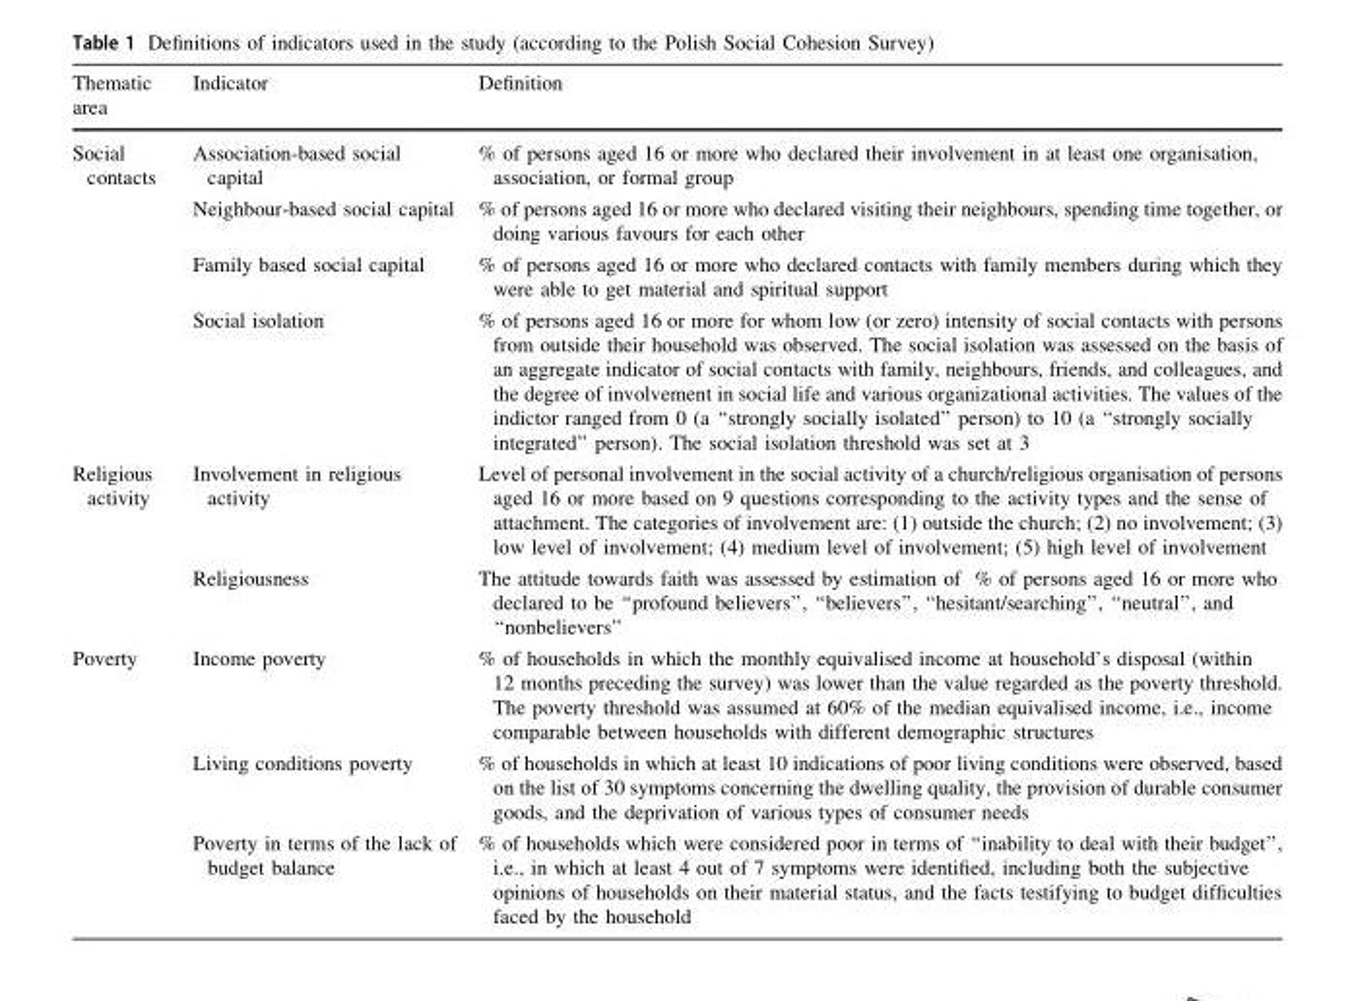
<table><thead><tr><td>Thematic area</td><td>Indicator</td><td>Definition</td></tr></thead><tbody><tr><td rowspan="4">Social contacts</td><td>Association-based social capital</td><td>% of persons aged 16 or more who declared their involvement in at least one organisation, association, or formal group</td></tr><tr><td>Neighbour-based social capital</td><td>% of persons aged 16 or more who declared visiting their neighbours, spending time together, or doing various favours for each other</td></tr><tr><td>Family based social capital</td><td>% of persons aged 16 or more who declared contacts with family members during which they were able to get material and spiritual support</td></tr><tr><td>Social isolation</td><td>% of persons aged 16 or more for whom low (or zero) intensity of social contacts with persons from outside their household was observed. The social isolation was assessed on the basis of an aggregate indicator of social contacts with family, neighbours, friends, and colleagues, and the degree of involvement in social life and various organizational activities. The values of the indictor ranged from 0 (a ‘‘strongly socially isolated’’ person) to 10 (a ‘‘strongly socially integrated’’ person). The social isolation threshold was set at 3</td></tr><tr><td rowspan="2">Religious activity</td><td>Involvement in religious activity</td><td>Level of personal involvement in the social activity of a church/religious organisation of persons aged 16 or more based on 9 questions corresponding to the activity types and the sense of attachment. The categories of involvement are: (1) outside the church; (2) no involvement; (3) low level of involvement; (4) medium level of involvement; (5) high level of involvement</td></tr><tr><td>Religiousness</td><td>The attitude towards faith was assessed by estimation of % of persons aged 16 or more who declared to be ‘‘profound believers’’, ‘‘believers’’, ‘‘hesitant/searching’’, ‘‘neutral’’, and ‘‘nonbelievers’’</td></tr><tr><td rowspan="3">Poverty</td><td>Income poverty</td><td>% of households in which the monthly equivalised income at household’s disposal (within 12 months preceding the survey) was lower than the value regarded as the poverty threshold. The poverty threshold was assumed at 60% of the median equivalised income, i.e., income comparable between households with different demographic structures</td></tr><tr><td>Living conditions poverty</td><td>% of households in which at least 10 indications of poor living conditions were observed, based on the list of 30 symptoms concerning the dwelling quality, the provision of durable consumer goods, and the deprivation of various types of consumer needs</td></tr><tr><td>Poverty in terms of the lack of budget balance</td><td>% of households which were considered poor in terms of ‘‘inability to deal with their budget’’, i.e., in which at least 4 out of 7 symptoms were identified, including both the subjective opinions of households on their material status, and the facts testifying to budget difficulties faced by the household</td></tr></tbody></table>